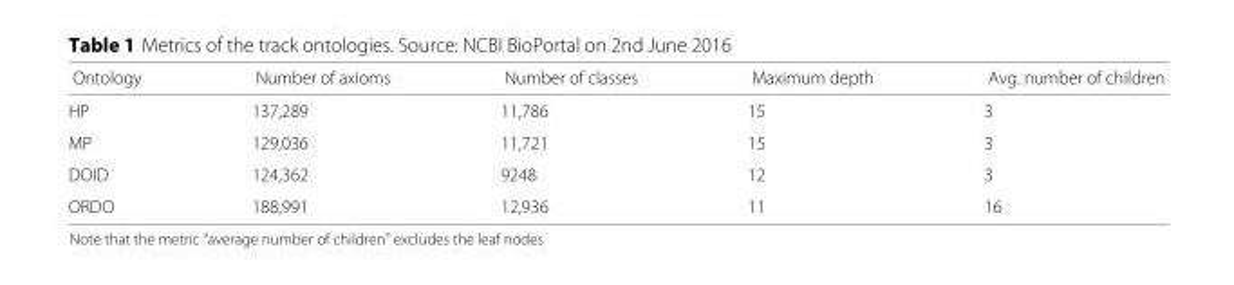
<table><thead><tr><td>Ontology</td><td>Number of axioms</td><td>Number of classes</td><td>Maximum depth</td><td>Avg. number of children</td></tr></thead><tbody><tr><td>HP</td><td>137,289</td><td>11,786</td><td>15</td><td>3</td></tr><tr><td>MP</td><td>129,036</td><td>11,721</td><td>15</td><td>3</td></tr><tr><td>DOID</td><td>124,362</td><td>9248</td><td>12</td><td>3</td></tr><tr><td>ORDO</td><td>188,991</td><td>12,936</td><td>11</td><td>16</td></tr></tbody></table>